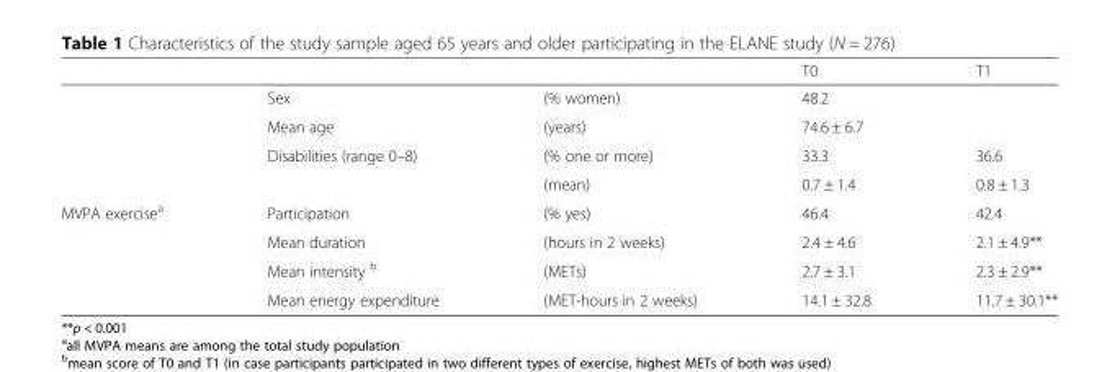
<table><thead><tr><td></td><td></td><td></td><td>T0</td><td>T1</td></tr></thead><tbody><tr><td></td><td>Sex</td><td>(% women)</td><td>48.2</td><td></td></tr><tr><td></td><td>Mean age</td><td>(years)</td><td>74.6 ± 6.7</td><td></td></tr><tr><td></td><td>Disabilities (range 0–8)</td><td>(% one or more)</td><td>33.3</td><td>36.6</td></tr><tr><td></td><td></td><td>(mean)</td><td>0.7 ± 1.4</td><td>0.8 ± 1.3</td></tr><tr><td rowspan="4">MVPA exercise<sup>a</sup></td><td>Participation</td><td>(% yes)</td><td>46.4</td><td>42.4</td></tr><tr><td>Mean duration</td><td>(hours in 2 weeks)</td><td>2.4 ± 4.6</td><td>2.1 ± 4.9**</td></tr><tr><td>Mean intensity <sup>b</sup></td><td>(METs)</td><td>2.7 ± 3.1</td><td>2.3 ± 2.9**</td></tr><tr><td>Mean energy expenditure</td><td>(MET-hours in 2 weeks)</td><td>14.1 ± 32.8</td><td>11.7 ± 30.1**</td></tr></tbody></table>